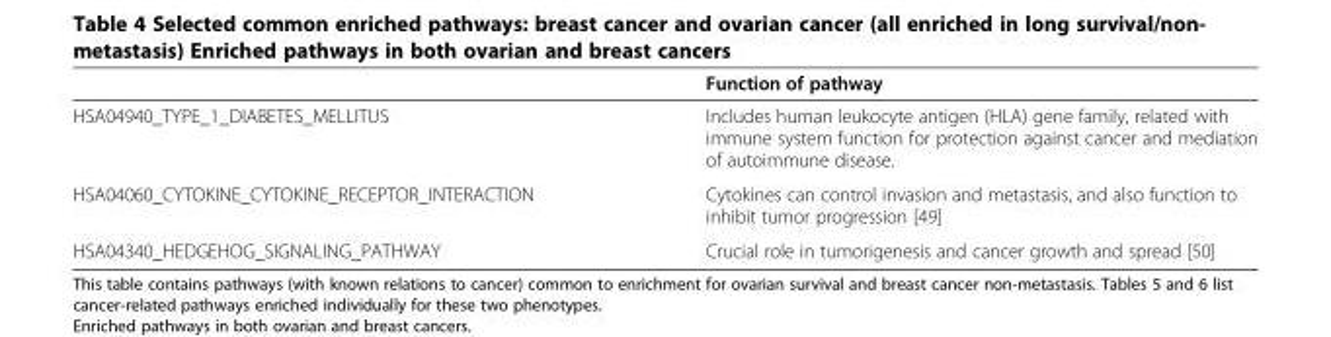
<table><thead><tr><td></td><td>Function of pathway</td></tr></thead><tbody><tr><td>HSA04940_TYPE_1_DIABETES_MELLITUS</td><td>Includes human leukocyte antigen (HLA) gene family, related with immune system function for protection against cancer and mediation of autoimmune disease.</td></tr><tr><td>HSA04060_CYTOKINE_CYTOKINE_RECEPTOR_INTERACTION</td><td>Cytokines can control invasion and metastasis, and also function to inhibit tumor progression [49]</td></tr><tr><td>HSA04340_HEDGEHOG_SIGNALING_PATHWAY</td><td>Crucial role in tumorigenesis and cancer growth and spread [50]</td></tr></tbody></table>